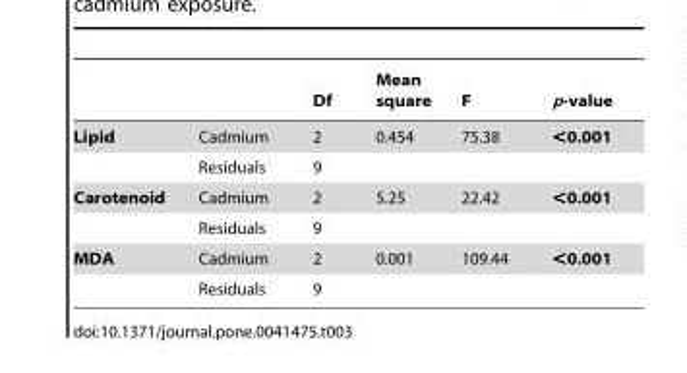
<table><thead><tr><td></td><td></td><td>Df</td><td>Mean square</td><td>F</td><td>p-value</td></tr></thead><tbody><tr><td rowspan="2">Lipid</td><td>Cadmium</td><td>2</td><td>0.454</td><td>75.38</td><td>&lt;0.001</td></tr><tr><td>Residuals</td><td>9</td><td></td><td></td><td></td></tr><tr><td rowspan="2">Carotenoid</td><td>Cadmium</td><td>2</td><td>5.25</td><td>22.42</td><td>&lt;0.001</td></tr><tr><td>Residuals</td><td>9</td><td></td><td></td><td></td></tr><tr><td rowspan="2">MDA</td><td>Cadmium</td><td>2</td><td>0.001</td><td>109.44</td><td>&lt;0.001</td></tr><tr><td>Residuals</td><td>9</td><td></td><td></td><td></td></tr></tbody></table>